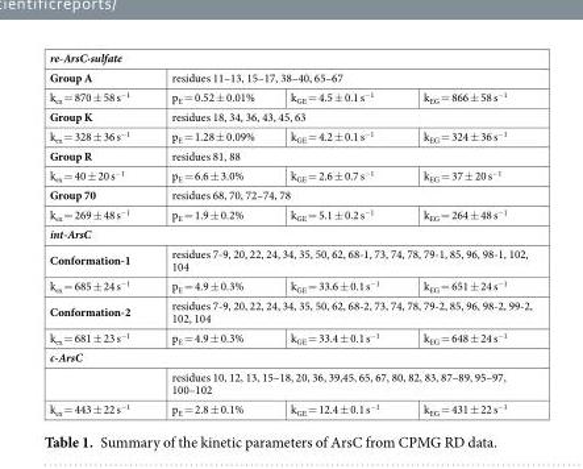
<table><tbody><tr><td colspan="4">re-ArsC·sulfate</td></tr><tr><td>Group A</td><td colspan="3">residues 11–13, 15–17, 38–40, 65–67</td></tr><tr><td>k<sub>ex</sub> = 870 ± 58 s<sup>−1</sup></td><td>p<sub>E</sub> = 0.52 ± 0.01%</td><td>k<sub>GE</sub> = 4.5 ± 0.1 s<sup>−1</sup></td><td>k<sub>EG</sub> = 866 ± 58 s<sup>−1</sup></td></tr><tr><td>Group K</td><td colspan="3">residues 18, 34, 36, 43, 45, 63</td></tr><tr><td>k<sub>ex</sub> = 328 ± 36 s<sup>−1</sup></td><td>p<sub>E</sub> = 1.28 ± 0.09%</td><td>k<sub>GE</sub> = 4.2 ± 0.1 s<sup>−1</sup></td><td>k<sub>EG</sub> = 324 ± 36 s<sup>−1</sup></td></tr><tr><td>Group R</td><td colspan="3">residues 81, 88</td></tr><tr><td>k<sub>ex</sub> = 40 ± 20 s<sup>−1</sup></td><td>p<sub>E</sub> = 6.6 ± 3.0%</td><td>k<sub>GE</sub> = 2.6 ± 0.7 s<sup>−1</sup></td><td>k<sub>EG</sub> = 37 ± 20 s<sup>−1</sup></td></tr><tr><td>Group 70</td><td colspan="3">residues 68, 70, 72–74, 78</td></tr><tr><td>k<sub>ex</sub> = 269 ± 48 s<sup>−1</sup></td><td>p<sub>E</sub> = 1.9 ± 0.2%</td><td>k<sub>GE</sub> = 5.1 ± 0.2 s<sup>−1</sup></td><td>k<sub>EG</sub> = 264 ± 48 s<sup>−1</sup></td></tr><tr><td colspan="4">int-ArsC</td></tr><tr><td>Conformation-1</td><td colspan="3">residues 7-9, 20, 22, 24, 34, 35, 50, 62, 68-1, 73, 74, 78, 79-1, 85, 96, 98-1, 102, 104</td></tr><tr><td>k<sub>ex</sub> = 685 ± 24 s<sup>−1</sup></td><td>p<sub>E</sub> = 4.9 ± 0.3%</td><td>k<sub>GE</sub> = 33.6 ± 0.1 s<sup>−1</sup></td><td>k<sub>EG</sub> = 651 ± 24 s<sup>−1</sup></td></tr><tr><td>Conformation-2</td><td colspan="3">residues 7-9, 20, 22, 24, 34, 35, 50, 62, 68-2, 73, 74, 78, 79-2, 85, 96, 98-2, 99-2, 102, 104</td></tr><tr><td>k<sub>ex</sub> = 681 ± 23 s<sup>−1</sup></td><td>p<sub>E</sub> = 4.9 ± 0.3%</td><td>k<sub>GE</sub> = 33.4 ± 0.1 s<sup>−1</sup></td><td>k<sub>EG</sub> = 648 ± 24 s<sup>−1</sup></td></tr><tr><td colspan="4">c-ArsC</td></tr><tr><td></td><td colspan="3">residues 10, 12, 13, 15–18, 20, 36, 39,45, 65, 67, 80, 82, 83, 87–89, 95–97, 100–102</td></tr><tr><td>k<sub>ex</sub> = 443 ± 22 s<sup>−1</sup></td><td>p<sub>E</sub> = 2.8 ± 0.1%</td><td>k<sub>GE</sub> = 12.4 ± 0.1 s<sup>−1</sup></td><td>k<sub>EG</sub> = 431 ± 22 s<sup>−1</sup></td></tr></tbody></table>